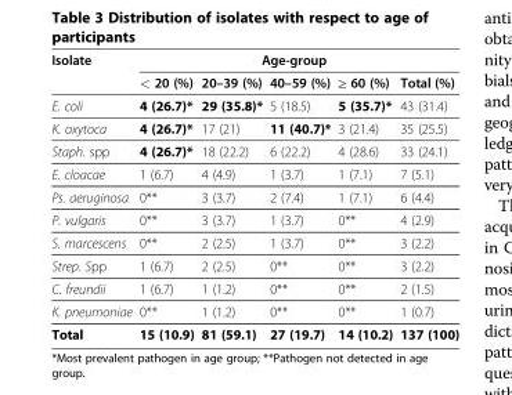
<table><thead><tr><td rowspan="2">Isolate</td><td colspan="5">Age-group</td></tr><tr><td>&lt; 20 (%)</td><td>20–39 (%)</td><td>40–59 (%)</td><td>≥ 60 (%)</td><td>Total (%)</td></tr></thead><tbody><tr><td>E. coli</td><td>4 (26.7)*</td><td>29 (35.8)*</td><td>5 (18.5)</td><td>5 (35.7)*</td><td>43 (31.4)</td></tr><tr><td>K. oxytoca</td><td>4 (26.7)*</td><td>17 (21)</td><td>11 (40.7)*</td><td>3 (21.4)</td><td>35 (25.5)</td></tr><tr><td>Staph. spp</td><td>4 (26.7)*</td><td>18 (22.2)</td><td>6 (22.2)</td><td>4 (28.6)</td><td>33 (24.1)</td></tr><tr><td>E. cloacae</td><td>1 (6.7)</td><td>4 (4.9)</td><td>1 (3.7)</td><td>1 (7.1)</td><td>7 (5.1)</td></tr><tr><td>Ps. aeruginosa</td><td>0**</td><td>3 (3.7)</td><td>2 (7.4)</td><td>1 (7.1)</td><td>6 (4.4)</td></tr><tr><td>P. vulgaris</td><td>0**</td><td>3 (3.7)</td><td>1 (3.7)</td><td>0**</td><td>4 (2.9)</td></tr><tr><td>S. marcescens</td><td>0**</td><td>2 (2.5)</td><td>1 (3.7)</td><td>0**</td><td>3 (2.2)</td></tr><tr><td>Strep. Spp</td><td>1 (6.7)</td><td>2 (2.5)</td><td>0**</td><td>0**</td><td>3 (2.2)</td></tr><tr><td>C. freundii</td><td>1 (6.7)</td><td>1 (1.2)</td><td>0**</td><td>0**</td><td>2 (1.5)</td></tr><tr><td>K. pneumoniae</td><td>0**</td><td>1 (1.2)</td><td>0**</td><td>0**</td><td>1 (0.7)</td></tr><tr><td>Total</td><td>15 (10.9)</td><td>81 (59.1)</td><td>27 (19.7)</td><td>14 (10.2)</td><td>137 (100)</td></tr></tbody></table>